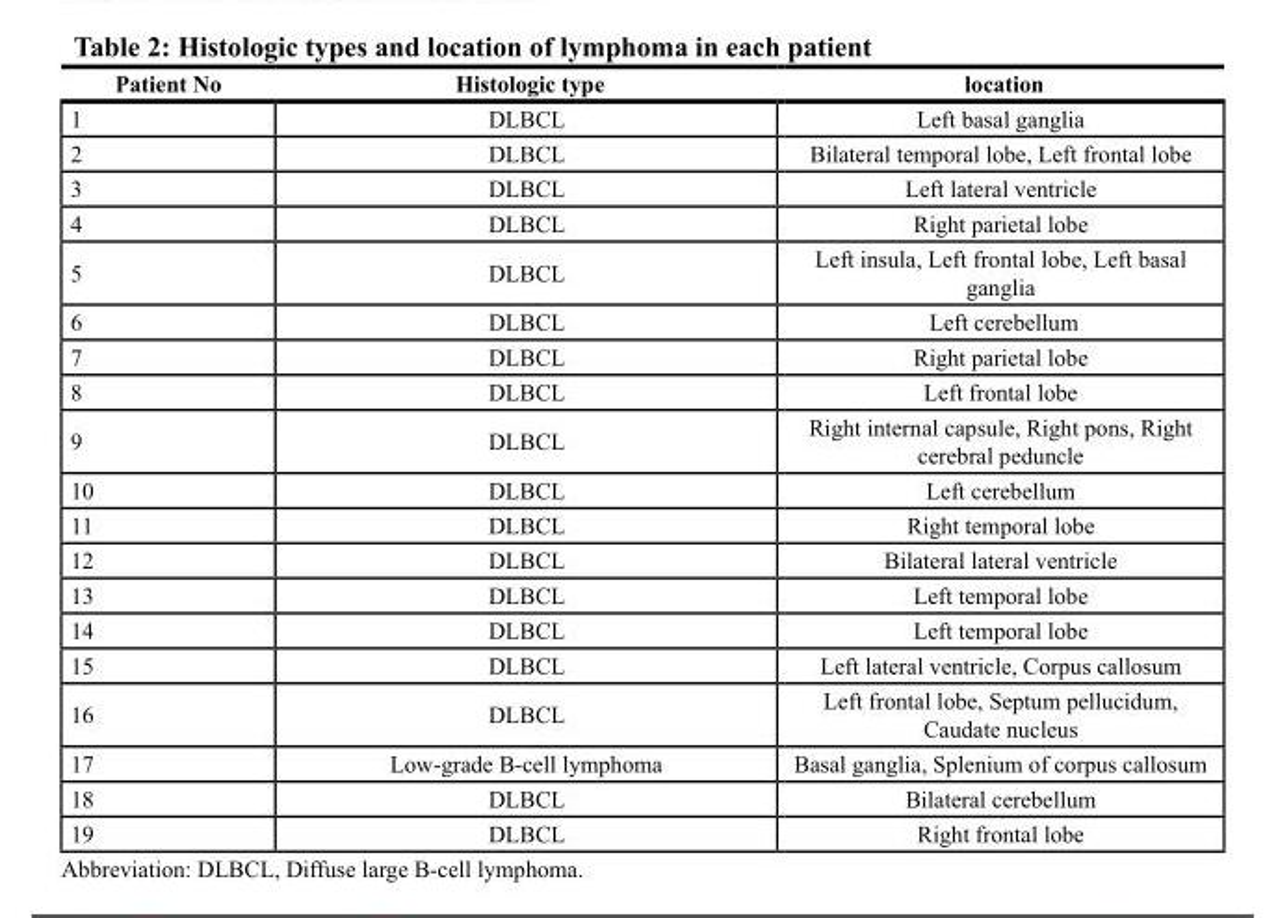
<table><thead><tr><td>Patient No</td><td>Histologic type</td><td>location</td></tr></thead><tbody><tr><td>1</td><td>DLBCL</td><td>Left basal ganglia</td></tr><tr><td>2</td><td>DLBCL</td><td>Bilateral temporal lobe, Left frontal lobe</td></tr><tr><td>3</td><td>DLBCL</td><td>Left lateral ventricle</td></tr><tr><td>4</td><td>DLBCL</td><td>Right parietal lobe</td></tr><tr><td>5</td><td>DLBCL</td><td>Left insula, Left frontal lobe, Left basal ganglia</td></tr><tr><td>6</td><td>DLBCL</td><td>Left cerebellum</td></tr><tr><td>7</td><td>DLBCL</td><td>Right parietal lobe</td></tr><tr><td>8</td><td>DLBCL</td><td>Left frontal lobe</td></tr><tr><td>9</td><td>DLBCL</td><td>Right internal capsule, Right pons, Right cerebral peduncle</td></tr><tr><td>10</td><td>DLBCL</td><td>Left cerebellum</td></tr><tr><td>11</td><td>DLBCL</td><td>Right temporal lobe</td></tr><tr><td>12</td><td>DLBCL</td><td>Bilateral lateral ventricle</td></tr><tr><td>13</td><td>DLBCL</td><td>Left temporal lobe</td></tr><tr><td>14</td><td>DLBCL</td><td>Left temporal lobe</td></tr><tr><td>15</td><td>DLBCL</td><td>Left lateral ventricle, Corpus callosum</td></tr><tr><td>16</td><td>DLBCL</td><td>Left frontal lobe, Septum pellucidum, Caudate nucleus</td></tr><tr><td>17</td><td>Low-grade B-cell lymphoma</td><td>Basal ganglia, Splenium of corpus callosum</td></tr><tr><td>18</td><td>DLBCL</td><td>Bilateral cerebellum</td></tr><tr><td>19</td><td>DLBCL</td><td>Right frontal lobe</td></tr></tbody></table>